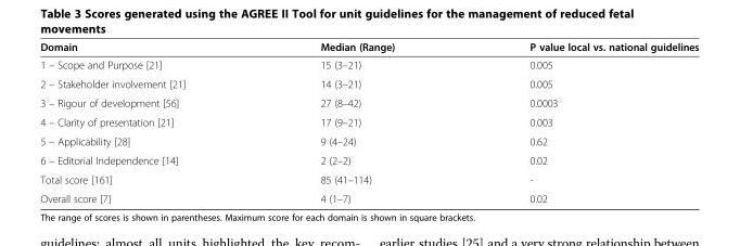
<table><thead><tr><td>Domain</td><td>Median (Range)</td><td>P value local vs. national guidelines</td></tr></thead><tbody><tr><td>1 – Scope and Purpose [21]</td><td>15 (3–21)</td><td>0.005</td></tr><tr><td>2 – Stakeholder involvement [21]</td><td>14 (3–21)</td><td>0.005</td></tr><tr><td>3 – Rigour of development [56]</td><td>27 (8–42)</td><td>0.0003</td></tr><tr><td>4 – Clarity of presentation [21]</td><td>17 (9–21)</td><td>0.003</td></tr><tr><td>5 – Applicability [28]</td><td>9 (4–24)</td><td>0.62</td></tr><tr><td>6 – Editorial Independence [14]</td><td>2 (2–2)</td><td>0.02</td></tr><tr><td>Total score [161]</td><td>85 (41–114)</td><td>-</td></tr><tr><td>Overall score [7]</td><td>4 (1–7)</td><td>0.02</td></tr></tbody></table>